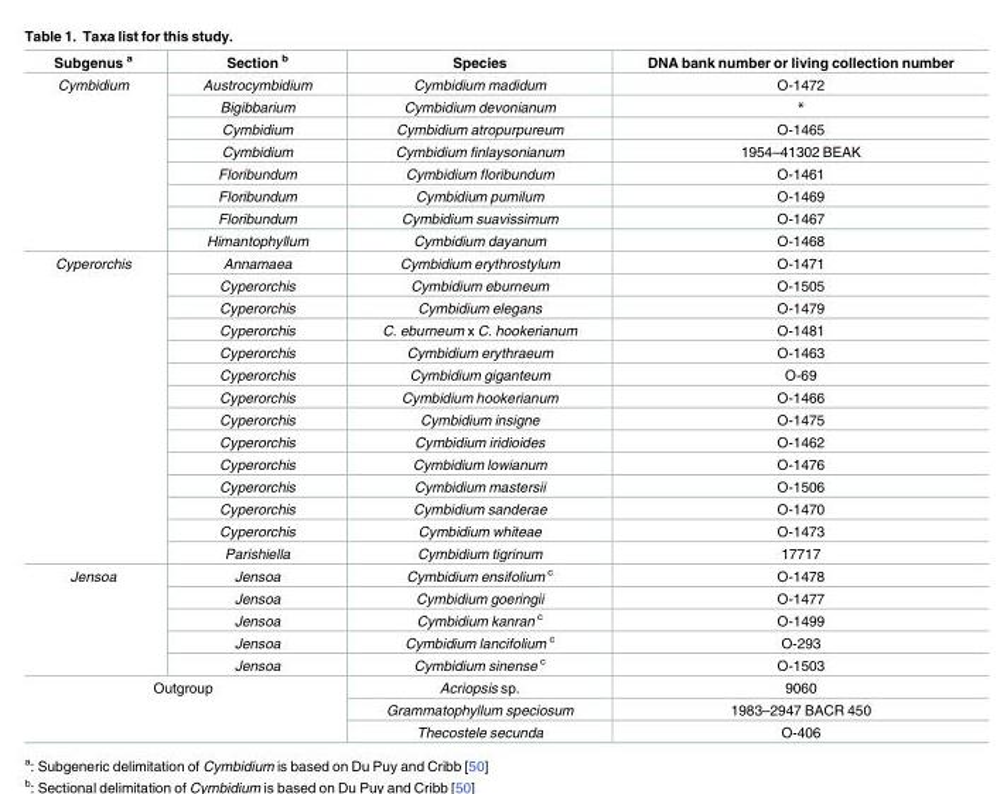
<table><thead><tr><td>Subgenus <sup>a</sup></td><td>Section <sup>b</sup></td><td>Species</td><td>DNA bank number or living collection number</td></tr></thead><tbody><tr><td rowspan="8">Cymbidium</td><td>Austrocymbidium</td><td>Cymbidium madidum</td><td>O-1472</td></tr><tr><td>Bigibbarium</td><td>Cymbidium devonianum</td><td>*</td></tr><tr><td>Cymbidium</td><td>Cymbidium atropurpureum</td><td>O-1465</td></tr><tr><td>Cymbidium</td><td>Cymbidium finlaysonianum</td><td>1954–41302 BEAK</td></tr><tr><td>Floribundum</td><td>Cymbidium floribundum</td><td>O-1461</td></tr><tr><td>Floribundum</td><td>Cymbidium pumilum</td><td>O-1469</td></tr><tr><td>Floribundum</td><td>Cymbidium suavissimum</td><td>O-1467</td></tr><tr><td>Himantophyllum</td><td>Cymbidium dayanum</td><td>O-1468</td></tr><tr><td rowspan="14">Cyperorchis</td><td>Annamaea</td><td>Cymbidium erythrostylum</td><td>O-1471</td></tr><tr><td>Cyperorchis</td><td>Cymbidium eburneum</td><td>O-1505</td></tr><tr><td>Cyperorchis</td><td>Cymbidium elegans</td><td>O-1479</td></tr><tr><td>Cyperorchis</td><td>C. eburneum x C. hookerianum</td><td>O-1481</td></tr><tr><td>Cyperorchis</td><td>Cymbidium erythraeum</td><td>O-1463</td></tr><tr><td>Cyperorchis</td><td>Cymbidium giganteum</td><td>O-69</td></tr><tr><td>Cyperorchis</td><td>Cymbidium hookerianum</td><td>O-1466</td></tr><tr><td>Cyperorchis</td><td>Cymbidium insigne</td><td>O-1475</td></tr><tr><td>Cyperorchis</td><td>Cymbidium iridioides</td><td>O-1462</td></tr><tr><td>Cyperorchis</td><td>Cymbidium lowianum</td><td>O-1476</td></tr><tr><td>Cyperorchis</td><td>Cymbidium mastersii</td><td>O-1506</td></tr><tr><td>Cyperorchis</td><td>Cymbidium sanderae</td><td>O-1470</td></tr><tr><td>Cyperorchis</td><td>Cymbidium whiteae</td><td>O-1473</td></tr><tr><td>Parishiella</td><td>Cymbidium tigrinum</td><td>17717</td></tr><tr><td rowspan="5">Jensoa</td><td>Jensoa</td><td>Cymbidium ensifolium <sup>c</sup></td><td>O-1478</td></tr><tr><td>Jensoa</td><td>Cymbidium goeringii</td><td>O-1477</td></tr><tr><td>Jensoa</td><td>Cymbidium kanran <sup>c</sup></td><td>O-1499</td></tr><tr><td>Jensoa</td><td>Cymbidium lancifolium <sup>c</sup></td><td>O-293</td></tr><tr><td>Jensoa</td><td>Cymbidium sinense <sup>c</sup></td><td>O-1503</td></tr><tr><td rowspan="3" colspan="2">Outgroup</td><td>Acriopsis sp.</td><td>9060</td></tr><tr><td>Grammatophyllum speciosum</td><td>1983–2947 BACR 450</td></tr><tr><td>Thecostele secunda</td><td>O-406</td></tr></tbody></table>